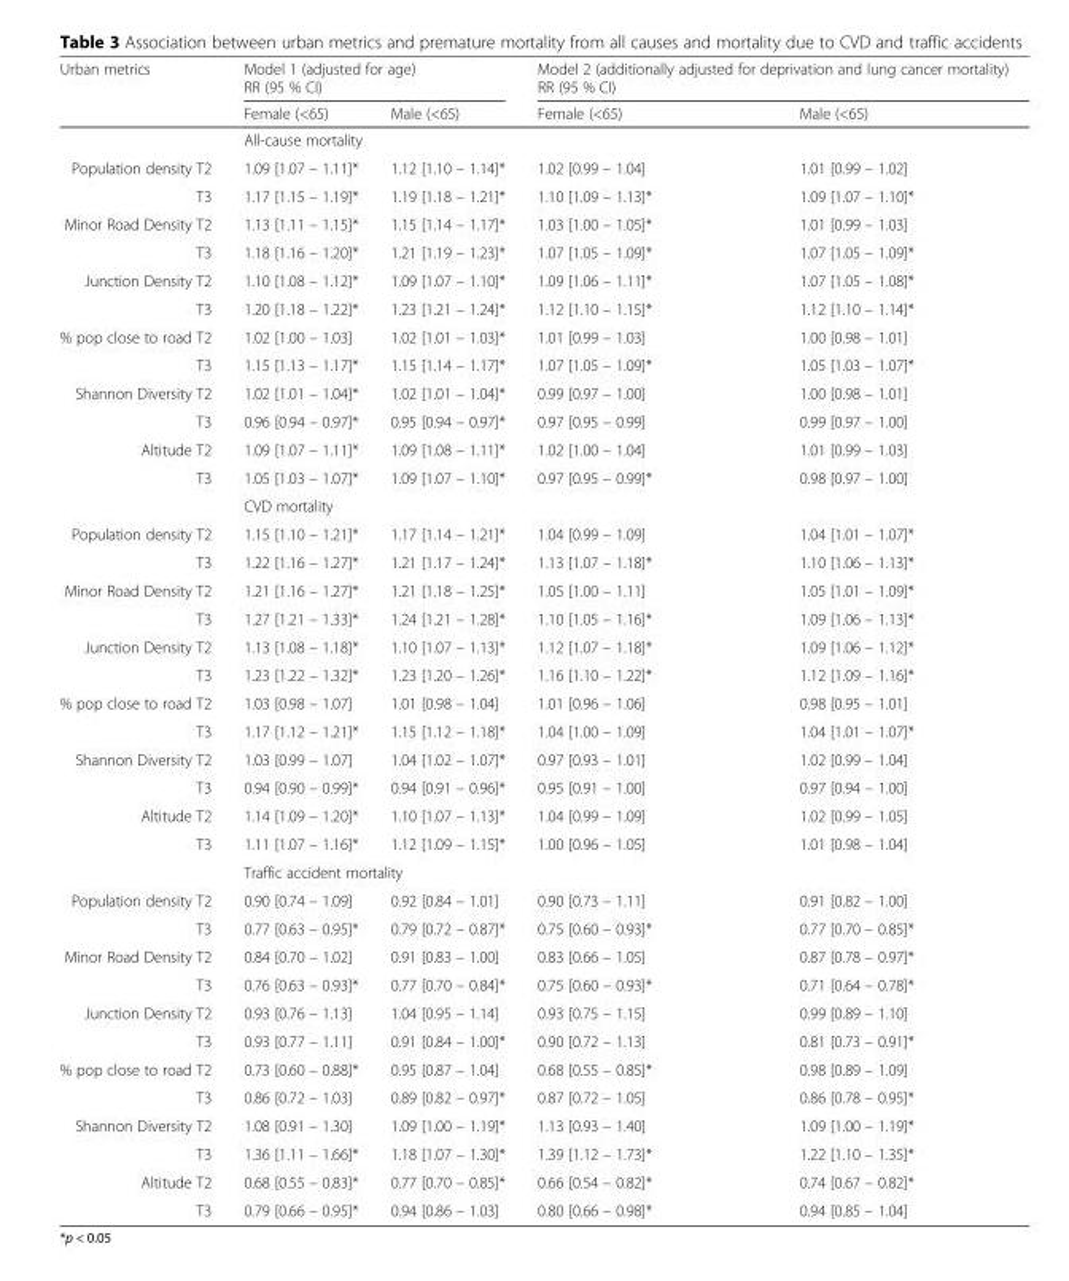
<table><thead><tr><td rowspan="3">Urban metrics</td><td rowspan="2" colspan="2">Model 1 (adjusted for age) RR (95 % CI)</td><td rowspan="2" colspan="2">Model 2 (additionally adjusted for deprivation and lung cancer mortality) RR (95 % CI)</td></tr><tr></tr><tr><td>Female (&lt;65)</td><td>Male (&lt;65)</td><td>Female (&lt;65)</td><td>Male (&lt;65)</td></tr></thead><tbody><tr><td></td><td colspan="2">All-cause mortality</td><td></td><td></td></tr><tr><td>Population density T2</td><td>1.09 [1.07 – 1.11]*</td><td>1.12 [1.10 – 1.14]*</td><td>1.02 [0.99 – 1.04]</td><td>1.01 [0.99 – 1.02]</td></tr><tr><td>T3</td><td>1.17 [1.15 – 1.19]*</td><td>1.19 [1.18 – 1.21]*</td><td>1.10 [1.09 – 1.13]*</td><td>1.09 [1.07 – 1.10]*</td></tr><tr><td>Minor Road Density T2</td><td>1.13 [1.11 – 1.15]*</td><td>1.15 [1.14 – 1.17]*</td><td>1.03 [1.00 – 1.05]*</td><td>1.01 [0.99 – 1.03]</td></tr><tr><td>T3</td><td>1.18 [1.16 – 1.20]*</td><td>1.21 [1.19 – 1.23]*</td><td>1.07 [1.05 – 1.09]*</td><td>1.07 [1.05 – 1.09]*</td></tr><tr><td>Junction Density T2</td><td>1.10 [1.08 – 1.12]*</td><td>1.09 [1.07 – 1.10]*</td><td>1.09 [1.06 – 1.11]*</td><td>1.07 [1.05 – 1.08]*</td></tr><tr><td>T3</td><td>1.20 [1.18 – 1.22]*</td><td>1.23 [1.21 – 1.24]*</td><td>1.12 [1.10 – 1.15]*</td><td>1.12 [1.10 – 1.14]*</td></tr><tr><td>% pop close to road T2</td><td>1.02 [1.00 – 1.03]</td><td>1.02 [1.01 – 1.03]*</td><td>1.01 [0.99 – 1.03]</td><td>1.00 [0.98 – 1.01]</td></tr><tr><td>T3</td><td>1.15 [1.13 – 1.17]*</td><td>1.15 [1.14 – 1.17]*</td><td>1.07 [1.05 – 1.09]*</td><td>1.05 [1.03 – 1.07]*</td></tr><tr><td>Shannon Diversity T2</td><td>1.02 [1.01 – 1.04]*</td><td>1.02 [1.01 – 1.04]*</td><td>0.99 [0.97 – 1.00]</td><td>1.00 [0.98 – 1.01]</td></tr><tr><td>T3</td><td>0.96 [0.94 – 0.97]*</td><td>0.95 [0.94 – 0.97]*</td><td>0.97 [0.95 – 0.99]</td><td>0.99 [0.97 – 1.00]</td></tr><tr><td>Altitude T2</td><td>1.09 [1.07 – 1.11]*</td><td>1.09 [1.08 – 1.11]*</td><td>1.02 [1.00 – 1.04]</td><td>1.01 [0.99 – 1.03]</td></tr><tr><td rowspan="2">T3</td><td>1.05 [1.03 – 1.07]*</td><td>1.09 [1.07 – 1.10]*</td><td>0.97 [0.95 – 0.99]*</td><td>0.98 [0.97 – 1.00]</td></tr><tr><td colspan="2">CVD mortality</td><td></td><td></td></tr><tr><td>Population density T2</td><td>1.15 [1.10 – 1.21]*</td><td>1.17 [1.14 – 1.21]*</td><td>1.04 [0.99 – 1.09]</td><td>1.04 [1.01 – 1.07]*</td></tr><tr><td>T3</td><td>1.22 [1.16 – 1.27]*</td><td>1.21 [1.17 – 1.24]*</td><td>1.13 [1.07 – 1.18]*</td><td>1.10 [1.06 – 1.13]*</td></tr><tr><td>Minor Road Density T2</td><td>1.21 [1.16 – 1.27]*</td><td>1.21 [1.18 – 1.25]*</td><td>1.05 [1.00 – 1.11]</td><td>1.05 [1.01 – 1.09]*</td></tr><tr><td>T3</td><td>1.27 [1.21 – 1.33]*</td><td>1.24 [1.21 – 1.28]*</td><td>1.10 [1.05 – 1.16]*</td><td>1.09 [1.06 – 1.13]*</td></tr><tr><td>Junction Density T2</td><td>1.13 [1.08 – 1.18]*</td><td>1.10 [1.07 – 1.13]*</td><td>1.12 [1.07 – 1.18]*</td><td>1.09 [1.06 – 1.12]*</td></tr><tr><td>T3</td><td>1.23 [1.22 – 1.32]*</td><td>1.23 [1.20 – 1.26]*</td><td>1.16 [1.10 – 1.22]*</td><td>1.12 [1.09 – 1.16]*</td></tr><tr><td>% pop close to road T2</td><td>1.03 [0.98 – 1.07]</td><td>1.01 [0.98 – 1.04]</td><td>1.01 [0.96 – 1.06]</td><td>0.98 [0.95 – 1.01]</td></tr><tr><td>T3</td><td>1.17 [1.12 – 1.21]*</td><td>1.15 [1.12 – 1.18]*</td><td>1.04 [1.00 – 1.09]</td><td>1.04 [1.01 – 1.07]*</td></tr><tr><td>Shannon Diversity T2</td><td>1.03 [0.99 – 1.07]</td><td>1.04 [1.02 – 1.07]*</td><td>0.97 [0.93 – 1.01]</td><td>1.02 [0.99 – 1.04]</td></tr><tr><td>T3</td><td>0.94 [0.90 – 0.99]*</td><td>0.94 [0.91 – 0.96]*</td><td>0.95 [0.91 – 1.00]</td><td>0.97 [0.94 – 1.00]</td></tr><tr><td>Altitude T2</td><td>1.14 [1.09 – 1.20]*</td><td>1.10 [1.07 – 1.13]*</td><td>1.04 [0.99 – 1.09]</td><td>1.02 [0.99 – 1.05]</td></tr><tr><td rowspan="2">T3</td><td>1.11 [1.07 – 1.16]*</td><td>1.12 [1.09 – 1.15]*</td><td>1.00 [0.96 – 1.05]</td><td>1.01 [0.98 – 1.04]</td></tr><tr><td colspan="2">Traffic accident mortality</td><td></td><td></td></tr><tr><td>Population density T2</td><td>0.90 [0.74 – 1.09]</td><td>0.92 [0.84 – 1.01]</td><td>0.90 [0.73 – 1.11]</td><td>0.91 [0.82 – 1.00]</td></tr><tr><td>T3</td><td>0.77 [0.63 – 0.95]*</td><td>0.79 [0.72 – 0.87]*</td><td>0.75 [0.60 – 0.93]*</td><td>0.77 [0.70 – 0.85]*</td></tr><tr><td>Minor Road Density T2</td><td>0.84 [0.70 – 1.02]</td><td>0.91 [0.83 – 1.00]</td><td>0.83 [0.66 – 1.05]</td><td>0.87 [0.78 – 0.97]*</td></tr><tr><td>T3</td><td>0.76 [0.63 – 0.93]*</td><td>0.77 [0.70 – 0.84]*</td><td>0.75 [0.60 – 0.93]*</td><td>0.71 [0.64 – 0.78]*</td></tr><tr><td>Junction Density T2</td><td>0.93 [0.76 – 1.13]</td><td>1.04 [0.95 – 1.14]</td><td>0.93 [0.75 – 1.15]</td><td>0.99 [0.89 – 1.10]</td></tr><tr><td>T3</td><td>0.93 [0.77 – 1.11]</td><td>0.91 [0.84 – 1.00]*</td><td>0.90 [0.72 – 1.13]</td><td>0.81 [0.73 – 0.91]*</td></tr><tr><td>% pop close to road T2</td><td>0.73 [0.60 – 0.88]*</td><td>0.95 [0.87 – 1.04]</td><td>0.68 [0.55 – 0.85]*</td><td>0.98 [0.89 – 1.09]</td></tr><tr><td>T3</td><td>0.86 [0.72 – 1.03]</td><td>0.89 [0.82 – 0.97]*</td><td>0.87 [0.72 – 1.05]</td><td>0.86 [0.78 – 0.95]*</td></tr><tr><td>Shannon Diversity T2</td><td>1.08 [0.91 – 1.30]</td><td>1.09 [1.00 – 1.19]*</td><td>1.13 [0.93 – 1.40]</td><td>1.09 [1.00 – 1.19]*</td></tr><tr><td>T3</td><td>1.36 [1.11 – 1.66]*</td><td>1.18 [1.07 – 1.30]*</td><td>1.39 [1.12 – 1.73]*</td><td>1.22 [1.10 – 1.35]*</td></tr><tr><td>Altitude T2</td><td>0.68 [0.55 – 0.83]*</td><td>0.77 [0.70 – 0.85]*</td><td>0.66 [0.54 – 0.82]*</td><td>0.74 [0.67 – 0.82]*</td></tr><tr><td>T3</td><td>0.79 [0.66 – 0.95]*</td><td>0.94 [0.86 – 1.03]</td><td>0.80 [0.66 – 0.98]*</td><td>0.94 [0.85 – 1.04]</td></tr></tbody></table>